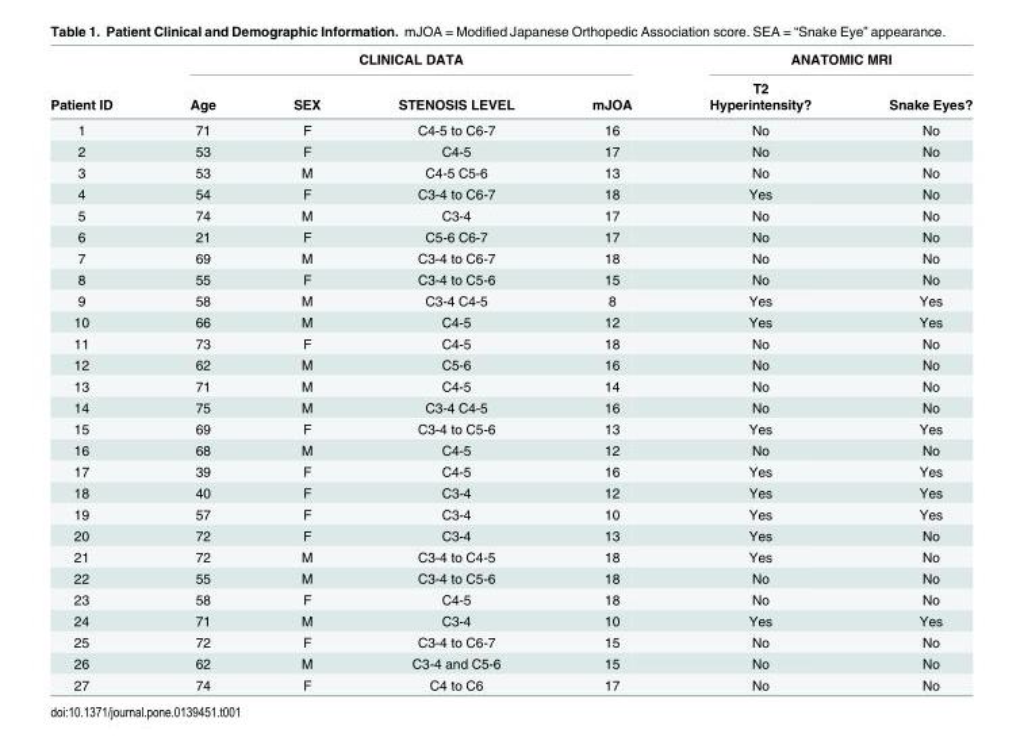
<table><thead><tr><td rowspan="3">Patient ID</td><td colspan="4">CLINICAL DATA</td><td colspan="2">ANATOMIC MRI</td></tr><tr><td rowspan="2">Age</td><td rowspan="2">SEX</td><td rowspan="2">STENOSIS LEVEL</td><td rowspan="2">mJOA</td><td rowspan="2">T2 Hyperintensity?</td><td rowspan="2">Snake Eyes?</td></tr><tr></tr></thead><tbody><tr><td>1</td><td>71</td><td>F</td><td>C4-5 to C6-7</td><td>16</td><td>No</td><td>No</td></tr><tr><td>2</td><td>53</td><td>F</td><td>C4-5</td><td>17</td><td>No</td><td>No</td></tr><tr><td>3</td><td>53</td><td>M</td><td>C4-5 C5-6</td><td>13</td><td>No</td><td>No</td></tr><tr><td>4</td><td>54</td><td>F</td><td>C3-4 to C6-7</td><td>18</td><td>Yes</td><td>No</td></tr><tr><td>5</td><td>74</td><td>M</td><td>C3-4</td><td>17</td><td>No</td><td>No</td></tr><tr><td>6</td><td>21</td><td>F</td><td>C5-6 C6-7</td><td>17</td><td>No</td><td>No</td></tr><tr><td>7</td><td>69</td><td>M</td><td>C3-4 to C6-7</td><td>18</td><td>No</td><td>No</td></tr><tr><td>8</td><td>55</td><td>F</td><td>C3-4 to C5-6</td><td>15</td><td>No</td><td>No</td></tr><tr><td>9</td><td>58</td><td>M</td><td>C3-4 C4-5</td><td>8</td><td>Yes</td><td>Yes</td></tr><tr><td>10</td><td>66</td><td>M</td><td>C4-5</td><td>12</td><td>Yes</td><td>Yes</td></tr><tr><td>11</td><td>73</td><td>F</td><td>C4-5</td><td>18</td><td>No</td><td>No</td></tr><tr><td>12</td><td>62</td><td>M</td><td>C5-6</td><td>16</td><td>No</td><td>No</td></tr><tr><td>13</td><td>71</td><td>M</td><td>C4-5</td><td>14</td><td>No</td><td>No</td></tr><tr><td>14</td><td>75</td><td>M</td><td>C3-4 C4-5</td><td>16</td><td>No</td><td>No</td></tr><tr><td>15</td><td>69</td><td>F</td><td>C3-4 to C5-6</td><td>13</td><td>Yes</td><td>Yes</td></tr><tr><td>16</td><td>68</td><td>M</td><td>C4-5</td><td>12</td><td>No</td><td>No</td></tr><tr><td>17</td><td>39</td><td>F</td><td>C4-5</td><td>16</td><td>Yes</td><td>Yes</td></tr><tr><td>18</td><td>40</td><td>F</td><td>C3-4</td><td>12</td><td>Yes</td><td>Yes</td></tr><tr><td>19</td><td>57</td><td>F</td><td>C3-4</td><td>10</td><td>Yes</td><td>Yes</td></tr><tr><td>20</td><td>72</td><td>F</td><td>C3-4</td><td>13</td><td>Yes</td><td>No</td></tr><tr><td>21</td><td>72</td><td>M</td><td>C3-4 to C4-5</td><td>18</td><td>Yes</td><td>No</td></tr><tr><td>22</td><td>55</td><td>M</td><td>C3-4 to C5-6</td><td>18</td><td>No</td><td>No</td></tr><tr><td>23</td><td>58</td><td>F</td><td>C4-5</td><td>18</td><td>No</td><td>No</td></tr><tr><td>24</td><td>71</td><td>M</td><td>C3-4</td><td>10</td><td>Yes</td><td>Yes</td></tr><tr><td>25</td><td>72</td><td>F</td><td>C3-4 to C6-7</td><td>15</td><td>No</td><td>No</td></tr><tr><td>26</td><td>62</td><td>M</td><td>C3-4 and C5-6</td><td>15</td><td>No</td><td>No</td></tr><tr><td>27</td><td>74</td><td>F</td><td>C4 to C6</td><td>17</td><td>No</td><td>No</td></tr></tbody></table>